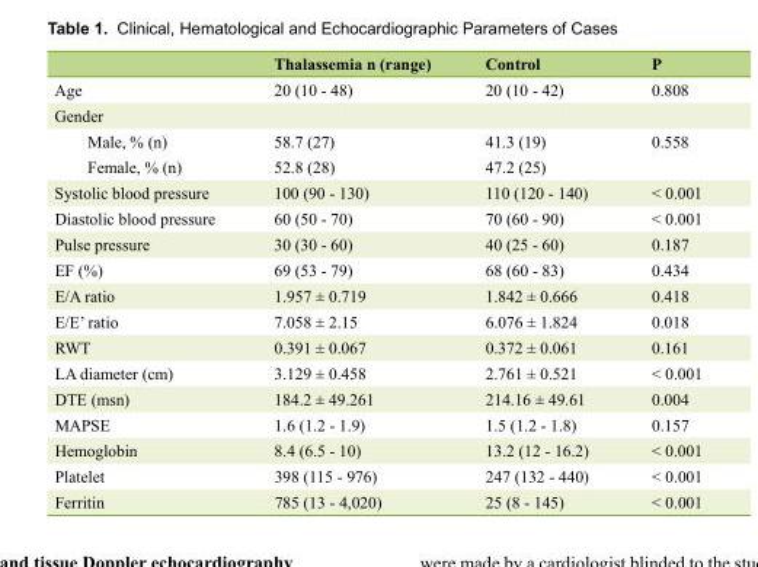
<table><thead><tr><td></td><td>Thalassemia n (range)</td><td>Control</td><td>P</td></tr></thead><tbody><tr><td>Age</td><td>20 (10 - 48)</td><td>20 (10 - 42)</td><td>0.808</td></tr><tr><td colspan="4">Gender</td></tr><tr><td>Male, % (n)</td><td>58.7 (27)</td><td>41.3 (19)</td><td rowspan="2">0.558</td></tr><tr><td>Female, % (n)</td><td>52.8 (28)</td><td>47.2 (25)</td></tr><tr><td>Systolic blood pressure</td><td>100 (90 - 130)</td><td>110 (120 - 140)</td><td>&lt; 0.001</td></tr><tr><td>Diastolic blood pressure</td><td>60 (50 - 70)</td><td>70 (60 - 90)</td><td>&lt; 0.001</td></tr><tr><td>Pulse pressure</td><td>30 (30 - 60)</td><td>40 (25 - 60)</td><td>0.187</td></tr><tr><td>EF (%)</td><td>69 (53 - 79)</td><td>68 (60 - 83)</td><td>0.434</td></tr><tr><td>E/A ratio</td><td>1.957 ± 0.719</td><td>1.842 ± 0.666</td><td>0.418</td></tr><tr><td>E/E’ ratio</td><td>7.058 ± 2.15</td><td>6.076 ± 1.824</td><td>0.018</td></tr><tr><td>RWT</td><td>0.391 ± 0.067</td><td>0.372 ± 0.061</td><td>0.161</td></tr><tr><td>LA diameter (cm)</td><td>3.129 ± 0.458</td><td>2.761 ± 0.521</td><td>&lt; 0.001</td></tr><tr><td>DTE (msn)</td><td>184.2 ± 49.261</td><td>214.16 ± 49.61</td><td>0.004</td></tr><tr><td>MAPSE</td><td>1.6 (1.2 - 1.9)</td><td>1.5 (1.2 - 1.8)</td><td>0.157</td></tr><tr><td>Hemoglobin</td><td>8.4 (6.5 - 10)</td><td>13.2 (12 - 16.2)</td><td>&lt; 0.001</td></tr><tr><td>Platelet</td><td>398 (115 - 976)</td><td>247 (132 - 440)</td><td>&lt; 0.001</td></tr><tr><td>Ferritin</td><td>785 (13 - 4,020)</td><td>25 (8 - 145)</td><td>&lt; 0.001</td></tr></tbody></table>